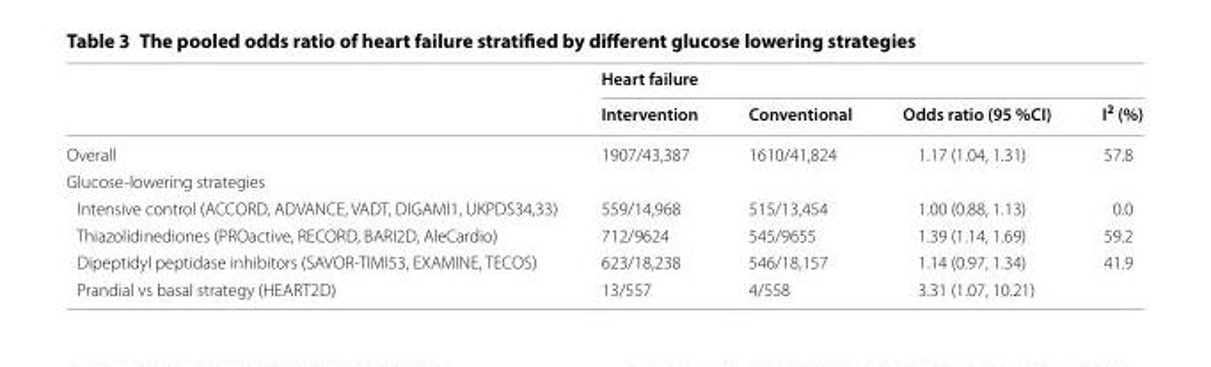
<table><thead><tr><td rowspan="2"></td><td colspan="4">Heart failure</td></tr><tr><td>Intervention</td><td>Conventional</td><td>Odds ratio (95 %CI)</td><td>I<sup>2</sup> (%)</td></tr></thead><tbody><tr><td>Overall</td><td>1907/43,387</td><td>1610/41,824</td><td>1.17 (1.04, 1.31)</td><td>57.8</td></tr><tr><td colspan="5">Glucose-lowering strategies</td></tr><tr><td>Intensive control (ACCORD, ADVANCE, VADT, DIGAMI1, UKPDS34,33)</td><td>559/14,968</td><td>515/13,454</td><td>1.00 (0.88, 1.13)</td><td>0.0</td></tr><tr><td>Thiazolidinediones (PROactive, RECORD, BARI2D, AleCardio)</td><td>712/9624</td><td>545/9655</td><td>1.39 (1.14, 1.69)</td><td>59.2</td></tr><tr><td>Dipeptidyl peptidase inhibitors (SAVOR-TIMI53, EXAMINE, TECOS)</td><td>623/18,238</td><td>546/18,157</td><td>1.14 (0.97, 1.34)</td><td>41.9</td></tr><tr><td>Prandial vs basal strategy (HEART2D)</td><td>13/557</td><td>4/558</td><td>3.31 (1.07, 10.21)</td><td></td></tr></tbody></table>